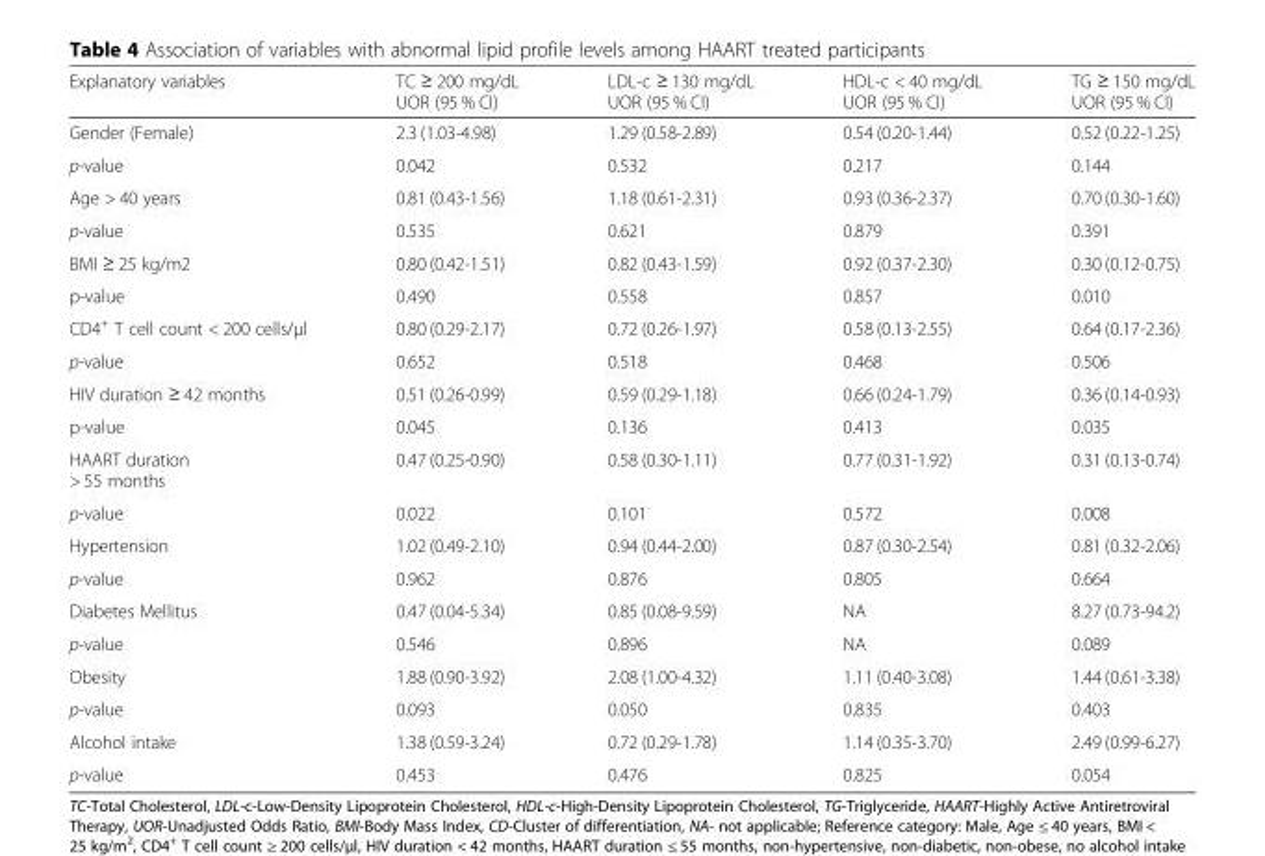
<table><thead><tr><td>Explanatory variables</td><td>TC ≥ 200 mg/dL UOR (95 % CI)</td><td>LDL-c ≥ 130 mg/dL UOR (95 % CI)</td><td>HDL-c &lt; 40 mg/dL UOR (95 % CI)</td><td>TG ≥ 150 mg/dL UOR (95 % CI)</td></tr></thead><tbody><tr><td>Gender (Female)</td><td>2.3 (1.03-4.98)</td><td>1.29 (0.58-2.89)</td><td>0.54 (0.20-1.44)</td><td>0.52 (0.22-1.25)</td></tr><tr><td>p-value</td><td>0.042</td><td>0.532</td><td>0.217</td><td>0.144</td></tr><tr><td>Age &gt; 40 years</td><td>0.81 (0.43-1.56)</td><td>1.18 (0.61-2.31)</td><td>0.93 (0.36-2.37)</td><td>0.70 (0.30-1.60)</td></tr><tr><td>p-value</td><td>0.535</td><td>0.621</td><td>0.879</td><td>0.391</td></tr><tr><td>BMI ≥ 25 kg/m2</td><td>0.80 (0.42-1.51)</td><td>0.82 (0.43-1.59)</td><td>0.92 (0.37-2.30)</td><td>0.30 (0.12-0.75)</td></tr><tr><td>p-value</td><td>0.490</td><td>0.558</td><td>0.857</td><td>0.010</td></tr><tr><td>CD4<sup>+</sup> T cell count &lt; 200 cells/μl</td><td>0.80 (0.29-2.17)</td><td>0.72 (0.26-1.97)</td><td>0.58 (0.13-2.55)</td><td>0.64 (0.17-2.36)</td></tr><tr><td>p-value</td><td>0.652</td><td>0.518</td><td>0.468</td><td>0.506</td></tr><tr><td>HIV duration ≥ 42 months</td><td>0.51 (0.26-0.99)</td><td>0.59 (0.29-1.18)</td><td>0.66 (0.24-1.79)</td><td>0.36 (0.14-0.93)</td></tr><tr><td>p-value</td><td>0.045</td><td>0.136</td><td>0.413</td><td>0.035</td></tr><tr><td>HAART duration &gt; 55 months</td><td>0.47 (0.25-0.90)</td><td>0.58 (0.30-1.11)</td><td>0.77 (0.31-1.92)</td><td>0.31 (0.13-0.74)</td></tr><tr><td>p-value</td><td>0.022</td><td>0.101</td><td>0.572</td><td>0.008</td></tr><tr><td>Hypertension</td><td>1.02 (0.49-2.10)</td><td>0.94 (0.44-2.00)</td><td>0.87 (0.30-2.54)</td><td>0.81 (0.32-2.06)</td></tr><tr><td>p-value</td><td>0.962</td><td>0.876</td><td>0.805</td><td>0.664</td></tr><tr><td>Diabetes Mellitus</td><td>0.47 (0.04-5.34)</td><td>0.85 (0.08-9.59)</td><td>NA</td><td>8.27 (0.73-94.2)</td></tr><tr><td>p-value</td><td>0.546</td><td>0.896</td><td>NA</td><td>0.089</td></tr><tr><td>Obesity</td><td>1.88 (0.90-3.92)</td><td>2.08 (1.00-4.32)</td><td>1.11 (0.40-3.08)</td><td>1.44 (0.61-3.38)</td></tr><tr><td>p-value</td><td>0.093</td><td>0.050</td><td>0.835</td><td>0.403</td></tr><tr><td>Alcohol intake</td><td>1.38 (0.59-3.24)</td><td>0.72 (0.29-1.78)</td><td>1.14 (0.35-3.70)</td><td>2.49 (0.99-6.27)</td></tr><tr><td>p-value</td><td>0.453</td><td>0.476</td><td>0.825</td><td>0.054</td></tr></tbody></table>